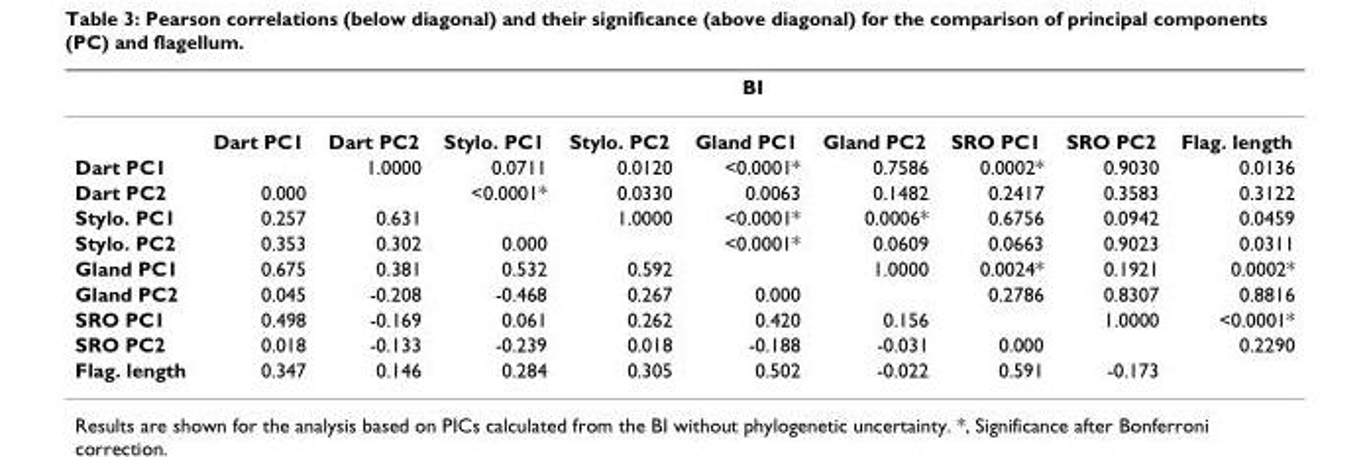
<table><thead><tr><td rowspan="2"></td><td colspan="9">BI</td></tr><tr><td>Dart PC1</td><td>Dart PC2</td><td>Stylo. PC1</td><td>Stylo. PC2</td><td>Gland PC1</td><td>Gland PC2</td><td>SRO PC1</td><td>SRO PC2</td><td>Flag. length</td></tr></thead><tbody><tr><td>Dart PC1</td><td></td><td>1.0000</td><td>0.0711</td><td>0.0120</td><td>&lt;0.0001*</td><td>0.7586</td><td>0.0002*</td><td>0.9030</td><td>0.0136</td></tr><tr><td>Dart PC2</td><td>0.000</td><td></td><td>&lt;0.0001*</td><td>0.0330</td><td>0.0063</td><td>0.1482</td><td>0.2417</td><td>0.3583</td><td>0.3122</td></tr><tr><td>Stylo. PC1</td><td>0.257</td><td>0.631</td><td></td><td>1.0000</td><td>&lt;0.0001*</td><td>0.0006*</td><td>0.6756</td><td>0.0942</td><td>0.0459</td></tr><tr><td>Stylo. PC2</td><td>0.353</td><td>0.302</td><td>0.000</td><td></td><td>&lt;0.0001*</td><td>0.0609</td><td>0.0663</td><td>0.9023</td><td>0.0311</td></tr><tr><td>Gland PC1</td><td>0.675</td><td>0.381</td><td>0.532</td><td>0.592</td><td></td><td>1.0000</td><td>0.0024*</td><td>0.1921</td><td>0.0002*</td></tr><tr><td>Gland PC2</td><td>0.045</td><td>-0.208</td><td>-0.468</td><td>0.267</td><td>0.000</td><td></td><td>0.2786</td><td>0.8307</td><td>0.8816</td></tr><tr><td>SRO PC1</td><td>0.498</td><td>-0.169</td><td>0.061</td><td>0.262</td><td>0.420</td><td>0.156</td><td></td><td>1.0000</td><td>&lt;0.0001*</td></tr><tr><td>SRO PC2</td><td>0.018</td><td>-0.133</td><td>-0.239</td><td>0.018</td><td>-0.188</td><td>-0.031</td><td>0.000</td><td></td><td>0.2290</td></tr><tr><td>Flag. length</td><td>0.347</td><td>0.146</td><td>0.284</td><td>0.305</td><td>0.502</td><td>-0.022</td><td>0.591</td><td>-0.173</td><td></td></tr></tbody></table>